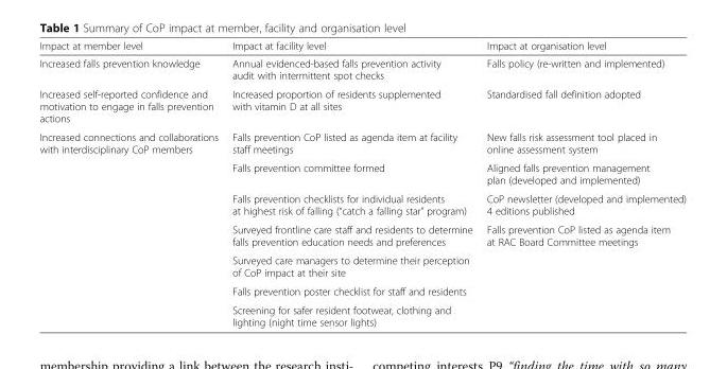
<table><thead><tr><td>Impact at member level</td><td>Impact at facility level</td><td>Impact at organisation level</td></tr></thead><tbody><tr><td>Increased falls prevention knowledge</td><td>Annual evidenced-based falls prevention activity audit with intermittent spot checks</td><td>Falls policy (re-written and implemented)</td></tr><tr><td>Increased self-reported confidence and motivation to engage in falls prevention actions</td><td>Increased proportion of residents supplemented with vitamin D at all sites</td><td>Standardised fall definition adopted</td></tr><tr><td rowspan="7">Increased connections and collaborations with interdisciplinary CoP members</td><td>Falls prevention CoP listed as agenda item at facility staff meetings</td><td>New falls risk assessment tool placed in online assessment system</td></tr><tr><td>Falls prevention committee formed</td><td>Aligned falls prevention management plan (developed and implemented)</td></tr><tr><td>Falls prevention checklists for individual residents at highest risk of falling (“catch a falling star” program)</td><td>CoP newsletter (developed and implemented) 4 editions published</td></tr><tr><td>Surveyed frontline care staff and residents to determine falls prevention education needs and preferences</td><td>Falls prevention CoP listed as agenda item at RAC Board Committee meetings</td></tr><tr><td>Surveyed care managers to determine their perception of CoP impact at their site</td><td></td></tr><tr><td>Falls prevention poster checklist for staff and residents</td><td></td></tr><tr><td>Screening for safer resident footwear, clothing and lighting (night time sensor lights)</td><td></td></tr></tbody></table>